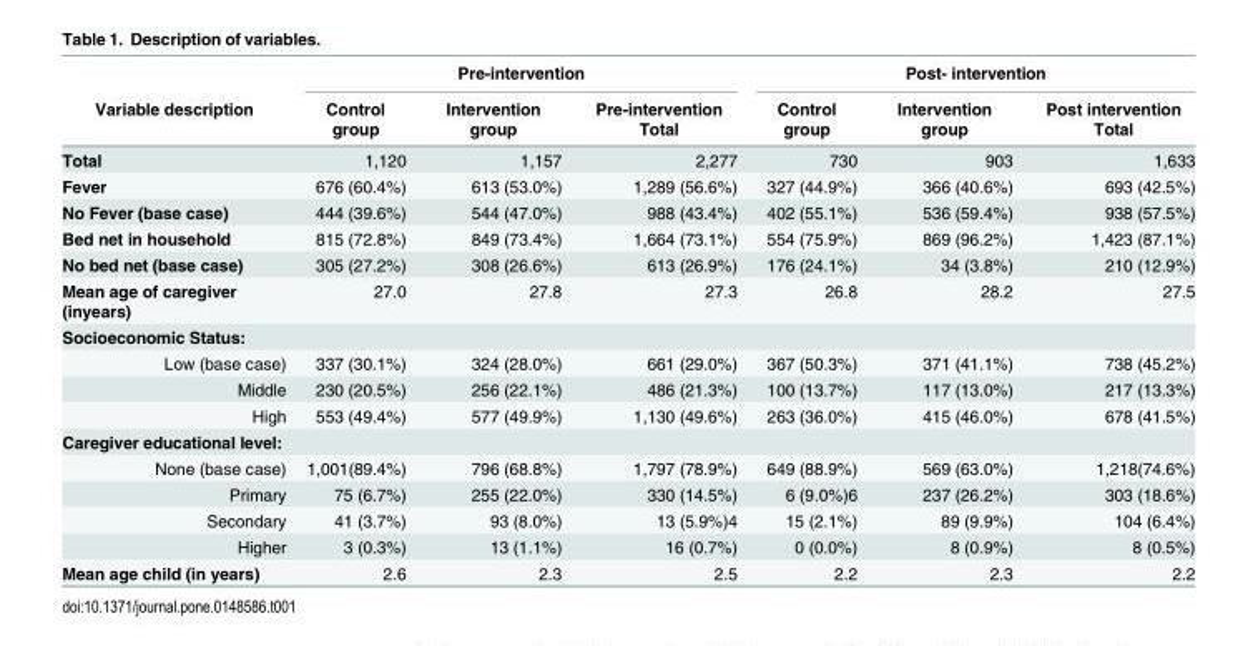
<table><thead><tr><td rowspan="2">Variable description</td><td colspan="3">Pre-intervention</td><td colspan="3">Post- intervention</td></tr><tr><td>Control group</td><td>Intervention group</td><td>Pre-intervention Total</td><td>Control group</td><td>Intervention group</td><td>Post intervention Total</td></tr></thead><tbody><tr><td>Total</td><td>1,120</td><td>1,157</td><td>2,277</td><td>730</td><td>903</td><td>1,633</td></tr><tr><td>Fever</td><td>676 (60.4%)</td><td>613 (53.0%)</td><td>1,289 (56.6%)</td><td>327 (44.9%)</td><td>366 (40.6%)</td><td>693 (42.5%)</td></tr><tr><td>No Fever (base case)</td><td>444 (39.6%)</td><td>544 (47.0%)</td><td>988 (43.4%)</td><td>402 (55.1%)</td><td>536 (59.4%)</td><td>938 (57.5%)</td></tr><tr><td>Bed net in household</td><td>815 (72.8%)</td><td>849 (73.4%)</td><td>1,664 (73.1%)</td><td>554 (75.9%)</td><td>869 (96.2%)</td><td>1,423 (87.1%)</td></tr><tr><td>No bed net (base case)</td><td>305 (27.2%)</td><td>308 (26.6%)</td><td>613 (26.9%)</td><td>176 (24.1%)</td><td>34 (3.8%)</td><td>210 (12.9%)</td></tr><tr><td>Mean age of caregiver (inyears)</td><td>27.0</td><td>27.8</td><td>27.3</td><td>26.8</td><td>28.2</td><td>27.5</td></tr><tr><td colspan="7">Socioeconomic Status:</td></tr><tr><td>Low (base case)</td><td>337 (30.1%)</td><td>324 (28.0%)</td><td>661 (29.0%)</td><td>367 (50.3%)</td><td>371 (41.1%)</td><td>738 (45.2%)</td></tr><tr><td>Middle</td><td>230 (20.5%)</td><td>256 (22.1%)</td><td>486 (21.3%)</td><td>100 (13.7%)</td><td>117 (13.0%)</td><td>217 (13.3%)</td></tr><tr><td>High</td><td>553 (49.4%)</td><td>577 (49.9%)</td><td>1,130 (49.6%)</td><td>263 (36.0%)</td><td>415 (46.0%)</td><td>678 (41.5%)</td></tr><tr><td colspan="7">Caregiver educational level:</td></tr><tr><td>None (base case)</td><td>1,001(89.4%)</td><td>796 (68.8%)</td><td>1,797 (78.9%)</td><td>649 (88.9%)</td><td>569 (63.0%)</td><td>1,218(74.6%)</td></tr><tr><td>Primary</td><td>75 (6.7%)</td><td>255 (22.0%)</td><td>330 (14.5%)</td><td>6 (9.0%)6</td><td>237 (26.2%)</td><td>303 (18.6%)</td></tr><tr><td>Secondary</td><td>41 (3.7%)</td><td>93 (8.0%)</td><td>13 (5.9%)4</td><td>15 (2.1%)</td><td>89 (9.9%)</td><td>104 (6.4%)</td></tr><tr><td>Higher</td><td>3 (0.3%)</td><td>13 (1.1%)</td><td>16 (0.7%)</td><td>0 (0.0%)</td><td>8 (0.9%)</td><td>8 (0.5%)</td></tr><tr><td>Mean age child (in years)</td><td>2.6</td><td>2.3</td><td>2.5</td><td>2.2</td><td>2.3</td><td>2.2</td></tr></tbody></table>